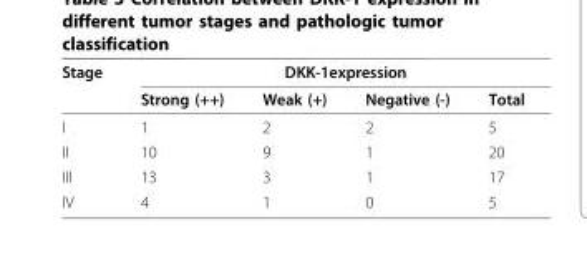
<table><thead><tr><td rowspan="2">Stage</td><td colspan="4">DKK-1expression</td></tr><tr><td>Strong (++)</td><td>Weak (+)</td><td>Negative (-)</td><td>Total</td></tr></thead><tbody><tr><td>I</td><td>1</td><td>2</td><td>2</td><td>5</td></tr><tr><td>II</td><td>10</td><td>9</td><td>1</td><td>20</td></tr><tr><td>III</td><td>13</td><td>3</td><td>1</td><td>17</td></tr><tr><td>IV</td><td>4</td><td>1</td><td>0</td><td>5</td></tr></tbody></table>